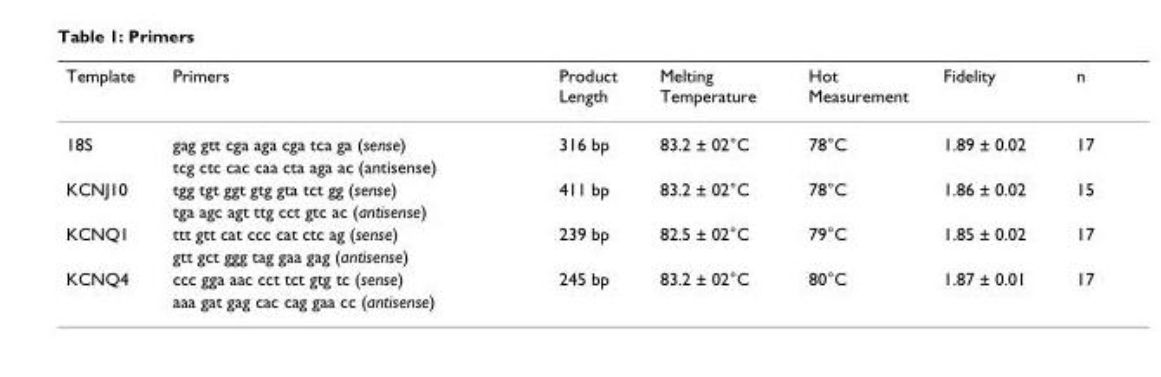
<table><thead><tr><td>Template</td><td>Primers</td><td>Product Length</td><td>Melting Temperature</td><td>Hot Measurement</td><td>Fidelity</td><td>n</td></tr></thead><tbody><tr><td rowspan="2">18S</td><td>gag gtt cga aga cga tca ga (sense)</td><td>316 bp</td><td>83.2 ± 02°C</td><td>78°C</td><td>1.89 ± 0.02</td><td>17</td></tr><tr><td>tcg ctc cac caa cta aga ac (antisense)</td><td></td><td></td><td></td><td></td><td></td></tr><tr><td rowspan="2">KCNJ10</td><td>tgg tgt ggt gtg gta tct gg (sense)</td><td>411 bp</td><td>83.2 ± 02°C</td><td>78°C</td><td>1.86 ± 0.02</td><td>15</td></tr><tr><td>tga agc agt ttg cct gtc ac (antisense)</td><td></td><td></td><td></td><td></td><td></td></tr><tr><td rowspan="2">KCNQ1</td><td>ttt gtt cat ccc cat ctc ag (sense)</td><td>239 bp</td><td>82.5 ± 02°C</td><td>79°C</td><td>1.85 ± 0.02</td><td>17</td></tr><tr><td>gtt gct ggg tag gaa gag (antisense)</td><td></td><td></td><td></td><td></td><td></td></tr><tr><td rowspan="2">KCNQ4</td><td>ccc gga aac cct tct gtg tc (sense)</td><td>245 bp</td><td>83.2 ± 02°C</td><td>80°C</td><td>1.87 ± 0.01</td><td>17</td></tr><tr><td>aaa gat gag cac cag gaa cc (antisense)</td><td></td><td></td><td></td><td></td><td></td></tr></tbody></table>